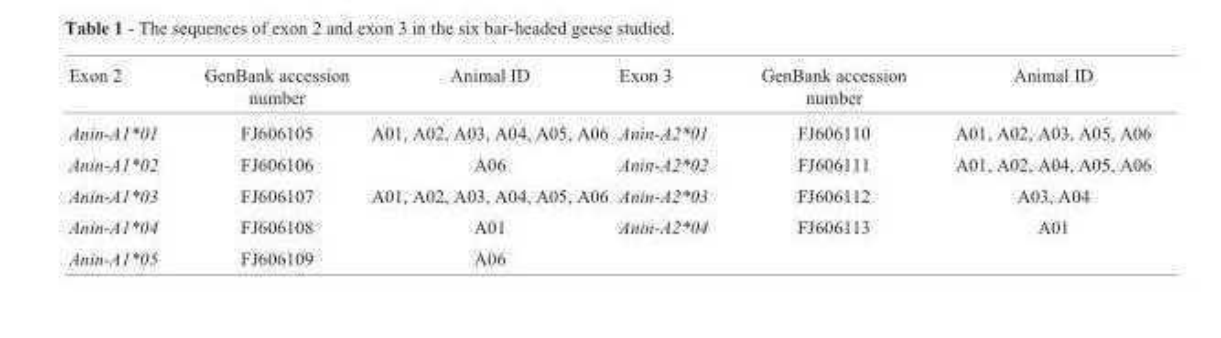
<table><thead><tr><td>Exon 2</td><td>GenBank accession number</td><td>Animal ID</td><td>Exon 3</td><td>GenBank accession number</td><td>Animal ID</td></tr></thead><tbody><tr><td>Anin-A1*01</td><td>FJ606105</td><td>A01, A02, A03, A04, A05, A06</td><td>Anin-A2*01</td><td>FJ606110</td><td>A01, A02, A03, A05, A06</td></tr><tr><td>Anin-A1*02</td><td>FJ606106</td><td>A06</td><td>Anin-A2*02</td><td>FJ606111</td><td>A01, A02, A04, A05, A06</td></tr><tr><td>Anin-A1*03</td><td>FJ606107</td><td>A01, A02, A03, A04, A05, A06</td><td>Anin-A2*03</td><td>FJ606112</td><td>A03, A04</td></tr><tr><td>Anin-A1*04</td><td>FJ606108</td><td>A01</td><td>Anin-A2*04</td><td>FJ606113</td><td>A01</td></tr><tr><td>Anin-A1*05</td><td>FJ606109</td><td>A06</td><td></td><td></td><td></td></tr></tbody></table>